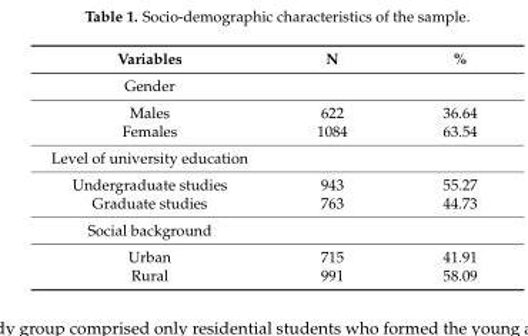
<table><thead><tr><td>Variables</td><td>N</td><td>%</td></tr></thead><tbody><tr><td colspan="3">Gender</td></tr><tr><td>Males</td><td>622</td><td>36.64</td></tr><tr><td>Females</td><td>1084</td><td>63.54</td></tr><tr><td colspan="3">Level of university education</td></tr><tr><td>Undergraduate studies</td><td>943</td><td>55.27</td></tr><tr><td>Graduate studies</td><td>763</td><td>44.73</td></tr><tr><td colspan="3">Social background</td></tr><tr><td>Urban</td><td>715</td><td>41.91</td></tr><tr><td>Rural</td><td>991</td><td>58.09</td></tr></tbody></table>